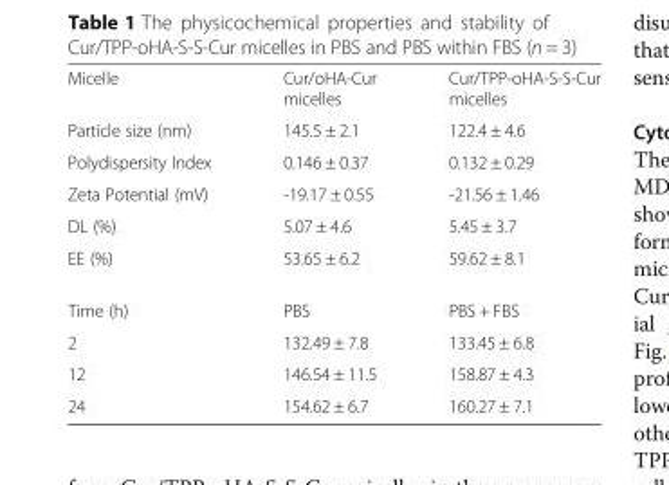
<table><tbody><tr><td>Micelle</td><td>Cur/oHA-Cur micelles</td><td>Cur/TPP-oHA-S-S-Cur micelles</td></tr><tr><td>Particle size (nm)</td><td>145.5 ± 2.1</td><td>122.4 ± 4.6</td></tr><tr><td>Polydispersity Index</td><td>0.146 ± 0.37</td><td>0.132 ± 0.29</td></tr><tr><td>Zeta Potential (mV)</td><td>-19.17 ± 0.55</td><td>-21.56 ± 1.46</td></tr><tr><td>DL (%)</td><td>5.07 ± 4.6</td><td>5.45 ± 3.7</td></tr><tr><td>EE (%)</td><td>53.65 ± 6.2</td><td>59.62 ± 8.1</td></tr><tr><td>Time (h)</td><td>PBS</td><td>PBS + FBS</td></tr><tr><td>2</td><td>132.49 ± 7.8</td><td>133.45 ± 6.8</td></tr><tr><td>12</td><td>146.54 ± 11.5</td><td>158.87 ± 4.3</td></tr><tr><td>24</td><td>154.62 ± 6.7</td><td>160.27 ± 7.1</td></tr></tbody></table>